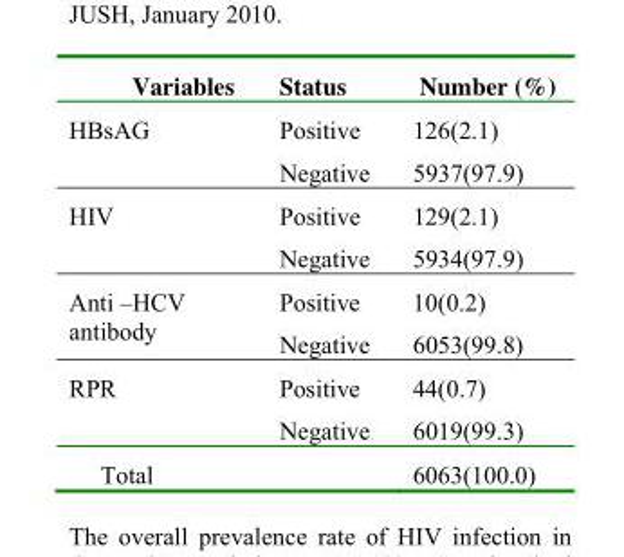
<table><thead><tr><td>Variables</td><td>Status</td><td>Number (%)</td></tr></thead><tbody><tr><td rowspan="2">HBsAG</td><td>Positive</td><td>126(2.1)</td></tr><tr><td>Negative</td><td>5937(97.9)</td></tr><tr><td rowspan="2">HIV</td><td>Positive</td><td>129(2.1)</td></tr><tr><td>Negative</td><td>5934(97.9)</td></tr><tr><td rowspan="2">Anti –HCV antibody</td><td>Positive</td><td>10(0.2)</td></tr><tr><td>Negative</td><td>6053(99.8)</td></tr><tr><td rowspan="2">RPR</td><td>Positive</td><td>44(0.7)</td></tr><tr><td>Negative</td><td>6019(99.3)</td></tr><tr><td>Total</td><td></td><td>6063(100.0)</td></tr></tbody></table>